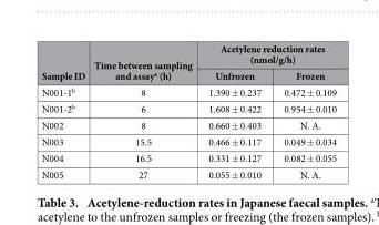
<table><thead><tr><td rowspan="2">Sample ID</td><td rowspan="2">Time between sampling and assay<sup>a</sup> (h)</td><td colspan="2">Acetylene reduction rates (nmol/g/h)</td></tr><tr><td>Unfrozen</td><td>Frozen</td></tr></thead><tbody><tr><td>N001-1<sup>b</sup></td><td>8</td><td>1.390 ± 0.237</td><td>0.472 ± 0.109</td></tr><tr><td>N001-2<sup>b</sup></td><td>6</td><td>1.608 ± 0.422</td><td>0.954 ± 0.010</td></tr><tr><td>N002</td><td>8</td><td>0.660 ± 0.403</td><td>N. A.</td></tr><tr><td>N003</td><td>15.5</td><td>0.466 ± 0.117</td><td>0.049 ± 0.034</td></tr><tr><td>N004</td><td>16.5</td><td>0.331 ± 0.127</td><td>0.082 ± 0.055</td></tr><tr><td>N005</td><td>27</td><td>0.055 ± 0.010</td><td>N. A.</td></tr></tbody></table>